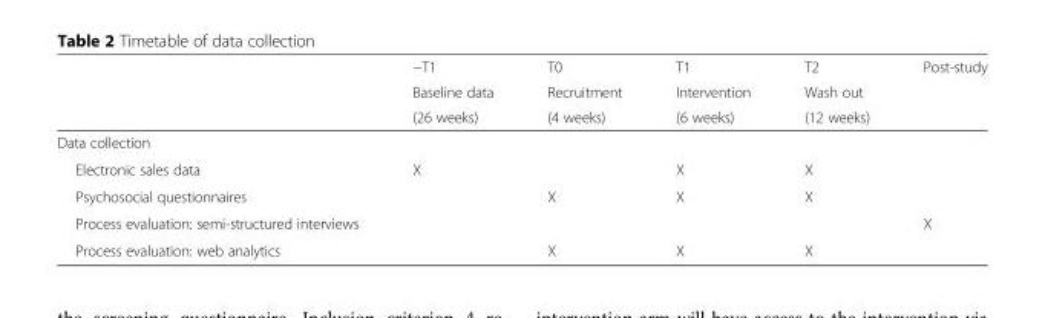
<table><thead><tr><td rowspan="3"></td><td rowspan="3">−T1 Baseline data (26 weeks)</td><td rowspan="3">T0 Recruitment (4 weeks)</td><td rowspan="3">T1 Intervention (6 weeks)</td><td rowspan="3">T2 Wash out (12 weeks)</td><td rowspan="3">Post-study</td></tr><tr></tr><tr></tr></thead><tbody><tr><td colspan="6">Data collection</td></tr><tr><td>Electronic sales data</td><td>X</td><td></td><td>X</td><td>X</td><td></td></tr><tr><td>Psychosocial questionnaires</td><td></td><td>X</td><td>X</td><td>X</td><td></td></tr><tr><td>Process evaluation: semi-structured interviews</td><td></td><td></td><td></td><td></td><td>X</td></tr><tr><td>Process evaluation: web analytics</td><td></td><td>X</td><td>X</td><td>X</td><td></td></tr></tbody></table>